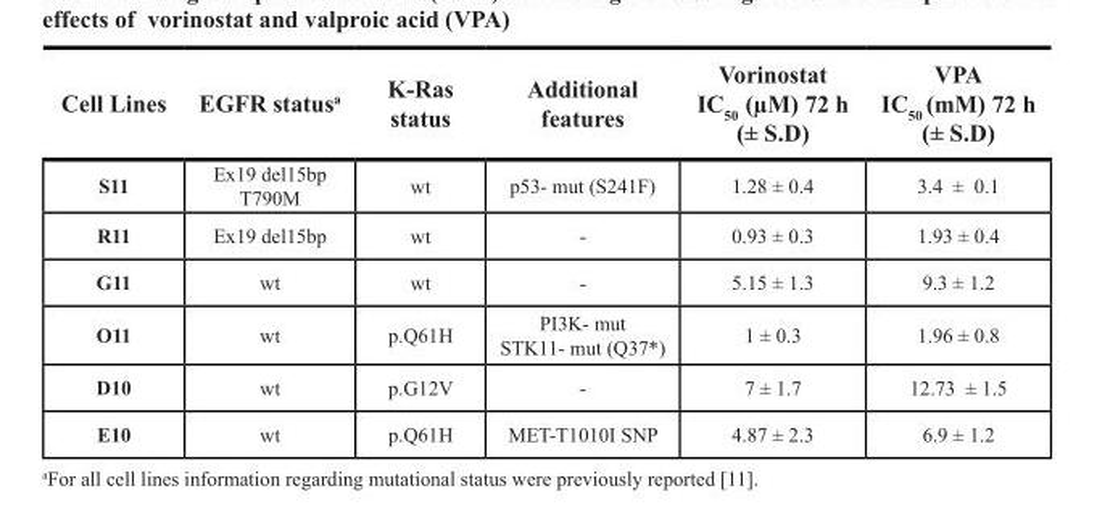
<table><thead><tr><td>Cell Lines</td><td>EGFR status<sup>a</sup></td><td>K-Ras status</td><td>Additional features</td><td>Vorinostat IC<sub>50</sub> (µM) 72 h (± S.D)</td><td>VPA IC<sub>50</sub> (mM) 72 h (± S.D)</td></tr></thead><tbody><tr><td>S11</td><td>Ex19 del15bp T790M</td><td>wt</td><td>p53- mut (S241F)</td><td>1.28 ± 0.4</td><td>3.4 ± 0.1</td></tr><tr><td>R11</td><td>Ex19 del15bp</td><td>wt</td><td>-</td><td>0.93 ± 0.3</td><td>1.93 ± 0.4</td></tr><tr><td>G11</td><td>wt</td><td>wt</td><td>-</td><td>5.15 ± 1.3</td><td>9.3 ± 1.2</td></tr><tr><td>O11</td><td>wt</td><td>p.Q61H</td><td>PI3K- mut STK11- mut (Q37*)</td><td>1 ± 0.3</td><td>1.96 ± 0.8</td></tr><tr><td>D10</td><td>wt</td><td>p.G12V</td><td>-</td><td>7 ± 1.7</td><td>12.73 ± 1.5</td></tr><tr><td>E10</td><td>wt</td><td>p.Q61H</td><td>MET-T1010I SNP</td><td>4.87 ± 2.3</td><td>6.9 ± 1.2</td></tr></tbody></table>